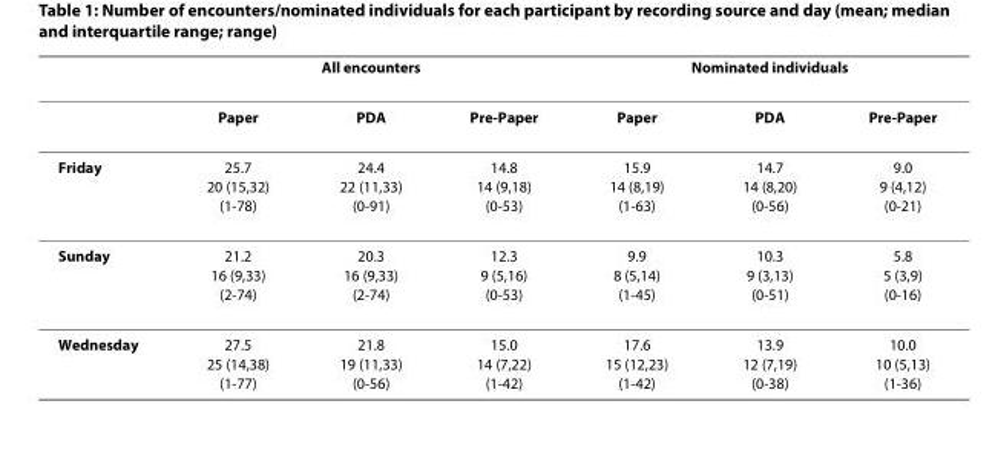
<table><thead><tr><td rowspan="2"></td><td colspan="3">All encounters</td><td colspan="3">Nominated individuals</td></tr><tr><td>Paper</td><td>PDA</td><td>Pre-Paper</td><td>Paper</td><td>PDA</td><td>Pre-Paper</td></tr></thead><tbody><tr><td>Friday</td><td>25.7 20 (15,32) (1-78)</td><td>24.4 22 (11,33) (0-91)</td><td>14.8 14 (9,18) (0-53)</td><td>15.9 14 (8,19) (1-63)</td><td>14.7 14 (8,20) (0-56)</td><td>9.0 9 (4,12) (0-21)</td></tr><tr><td>Sunday</td><td>21.2 16 (9,33) (2-74)</td><td>20.3 16 (9,33) (2-74)</td><td>12.3 9 (5,16) (0-53)</td><td>9.9 8 (5,14) (1-45)</td><td>10.3 9 (3,13) (0-51)</td><td>5.8 5 (3,9) (0-16)</td></tr><tr><td>Wednesday</td><td>27.5 25 (14,38) (1-77)</td><td>21.8 19 (11,33) (0-56)</td><td>15.0 14 (7,22) (1-42)</td><td>17.6 15 (12,23) (1-42)</td><td>13.9 12 (7,19) (0-38)</td><td>10.0 10 (5,13) (1-36)</td></tr></tbody></table>